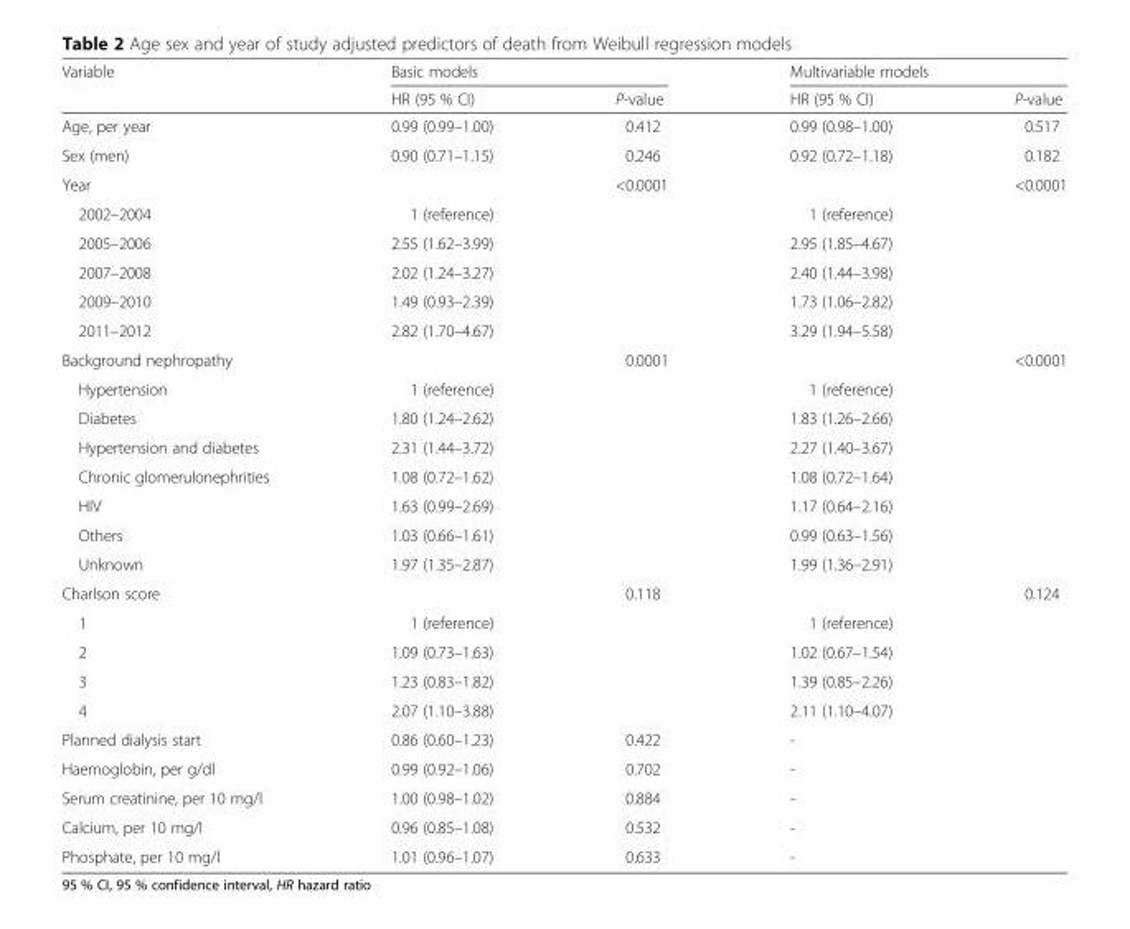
<table><thead><tr><td rowspan="2">Variable</td><td colspan="2">Basic models</td><td colspan="2">Multivariable models</td></tr><tr><td>HR (95 % CI)</td><td>P-value</td><td>HR (95 % CI)</td><td>P-value</td></tr></thead><tbody><tr><td>Age, per year</td><td>0.99 (0.99–1.00)</td><td>0.412</td><td>0.99 (0.98–1.00)</td><td>0.517</td></tr><tr><td>Sex (men)</td><td>0.90 (0.71–1.15)</td><td>0.246</td><td>0.92 (0.72–1.18)</td><td>0.182</td></tr><tr><td>Year</td><td></td><td>&lt;0.0001</td><td></td><td>&lt;0.0001</td></tr><tr><td>2002–2004</td><td>1 (reference)</td><td></td><td>1 (reference)</td><td></td></tr><tr><td>2005–2006</td><td>2.55 (1.62–3.99)</td><td></td><td>2.95 (1.85–4.67)</td><td></td></tr><tr><td>2007–2008</td><td>2.02 (1.24–3.27)</td><td></td><td>2.40 (1.44–3.98)</td><td></td></tr><tr><td>2009–2010</td><td>1.49 (0.93–2.39)</td><td></td><td>1.73 (1.06–2.82)</td><td></td></tr><tr><td>2011–2012</td><td>2.82 (1.70–4.67)</td><td></td><td>3.29 (1.94–5.58)</td><td></td></tr><tr><td>Background nephropathy</td><td></td><td>0.0001</td><td></td><td>&lt;0.0001</td></tr><tr><td>Hypertension</td><td>1 (reference)</td><td></td><td>1 (reference)</td><td></td></tr><tr><td>Diabetes</td><td>1.80 (1.24–2.62)</td><td></td><td>1.83 (1.26–2.66)</td><td></td></tr><tr><td>Hypertension and diabetes</td><td>2.31 (1.44–3.72)</td><td></td><td>2.27 (1.40–3.67)</td><td></td></tr><tr><td>Chronic glomerulonephrities</td><td>1.08 (0.72–1.62)</td><td></td><td>1.08 (0.72–1.64)</td><td></td></tr><tr><td>HIV</td><td>1.63 (0.99–2.69)</td><td></td><td>1.17 (0.64–2.16)</td><td></td></tr><tr><td>Others</td><td>1.03 (0.66–1.61)</td><td></td><td>0.99 (0.63–1.56)</td><td></td></tr><tr><td>Unknown</td><td>1.97 (1.35–2.87)</td><td></td><td>1.99 (1.36–2.91)</td><td></td></tr><tr><td>Charlson score</td><td></td><td>0.118</td><td></td><td>0.124</td></tr><tr><td>1</td><td>1 (reference)</td><td></td><td>1 (reference)</td><td></td></tr><tr><td>2</td><td>1.09 (0.73–1.63)</td><td></td><td>1.02 (0.67–1.54)</td><td></td></tr><tr><td>3</td><td>1.23 (0.83–1.82)</td><td></td><td>1.39 (0.85–2.26)</td><td></td></tr><tr><td>4</td><td>2.07 (1.10–3.88)</td><td></td><td>2.11 (1.10–4.07)</td><td></td></tr><tr><td>Planned dialysis start</td><td>0.86 (0.60–1.23)</td><td>0.422</td><td>-</td><td></td></tr><tr><td>Haemoglobin, per g/dl</td><td>0.99 (0.92–1.06)</td><td>0.702</td><td>-</td><td></td></tr><tr><td>Serum creatinine, per 10 mg/l</td><td>1.00 (0.98–1.02)</td><td>0.884</td><td>-</td><td></td></tr><tr><td>Calcium, per 10 mg/l</td><td>0.96 (0.85–1.08)</td><td>0.532</td><td>-</td><td></td></tr><tr><td>Phosphate, per 10 mg/l</td><td>1.01 (0.96–1.07)</td><td>0.633</td><td>-</td><td></td></tr></tbody></table>